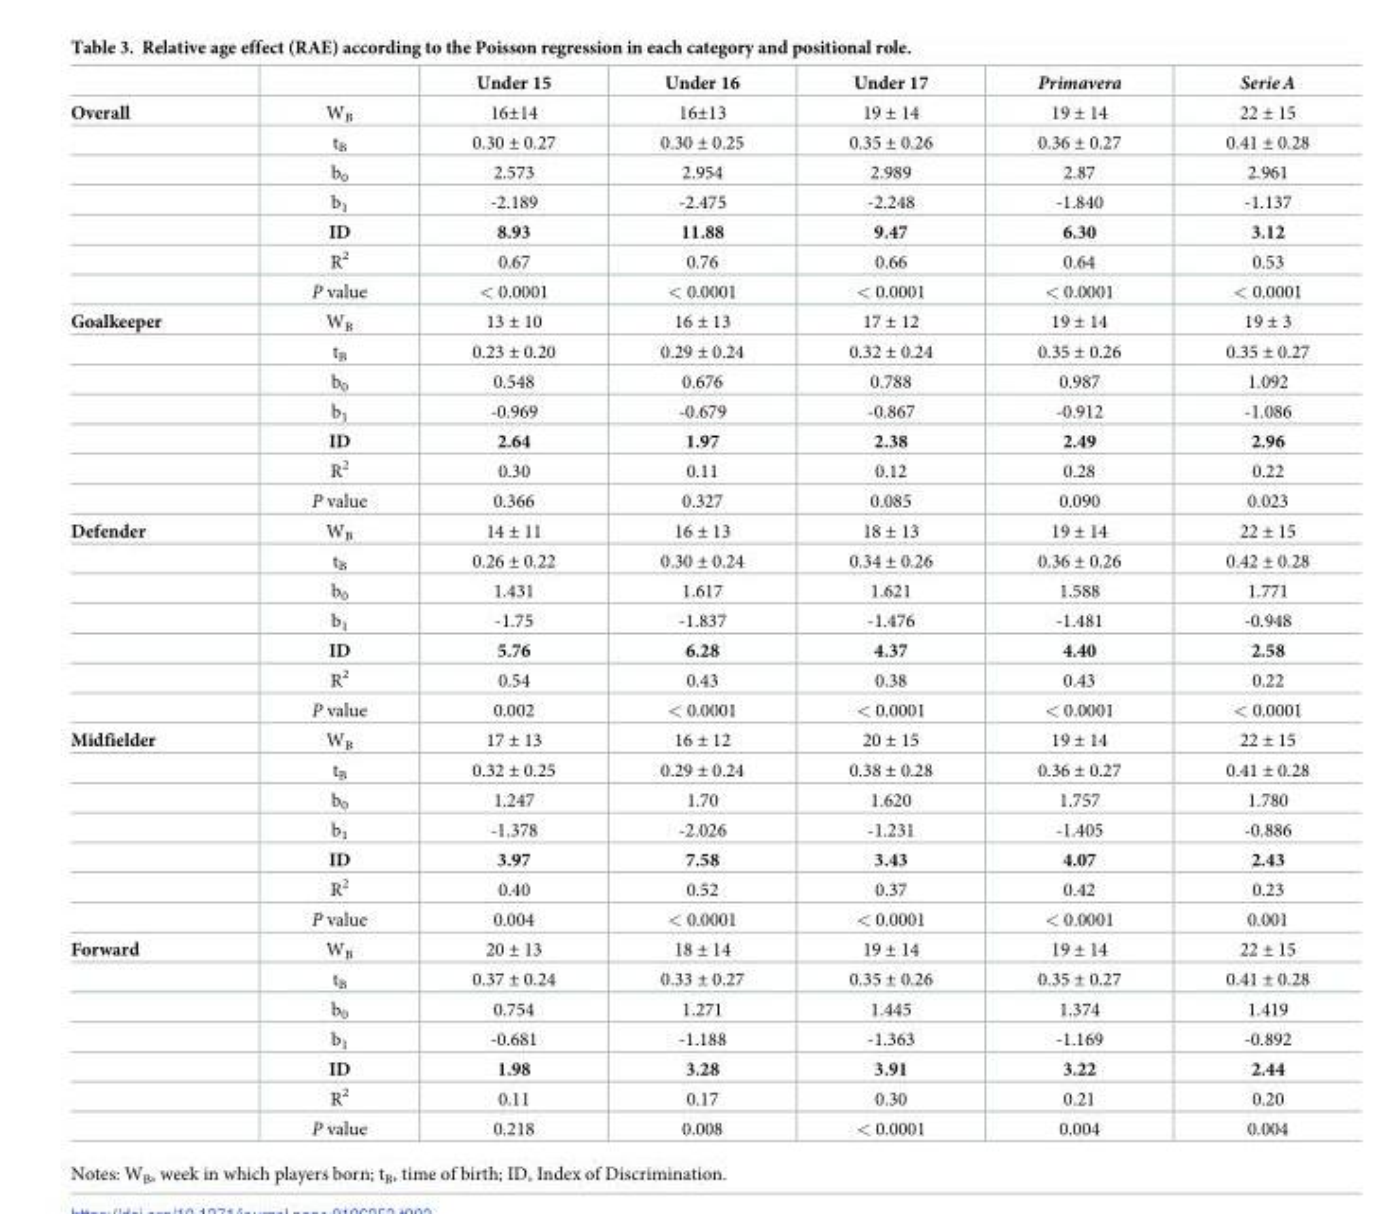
<table><thead><tr><td></td><td></td><td>Under 15</td><td>Under 16</td><td>Under 17</td><td>Primavera</td><td>Serie A</td></tr></thead><tbody><tr><td rowspan="7">Overall</td><td>W<sub>B</sub></td><td>16±14</td><td>16±13</td><td>19 ± 14</td><td>19 ± 14</td><td>22 ± 15</td></tr><tr><td>t<sub>B</sub></td><td>0.30 ± 0.27</td><td>0.30 ± 0.25</td><td>0.35 ± 0.26</td><td>0.36 ± 0.27</td><td>0.41 ± 0.28</td></tr><tr><td>b<sub>0</sub></td><td>2.573</td><td>2.954</td><td>2.989</td><td>2.87</td><td>2.961</td></tr><tr><td>b<sub>1</sub></td><td>-2.189</td><td>-2.475</td><td>-2.248</td><td>-1.840</td><td>-1.137</td></tr><tr><td>ID</td><td>8.93</td><td>11.88</td><td>9.47</td><td>6.30</td><td>3.12</td></tr><tr><td>R<sup>2</sup></td><td>0.67</td><td>0.76</td><td>0.66</td><td>0.64</td><td>0.53</td></tr><tr><td>P value</td><td>&lt; 0.0001</td><td>&lt; 0.0001</td><td>&lt; 0.0001</td><td>&lt; 0.0001</td><td>&lt; 0.0001</td></tr><tr><td rowspan="7">Goalkeeper</td><td>W<sub>B</sub></td><td>13 ± 10</td><td>16 ± 13</td><td>17 ± 12</td><td>19 ± 14</td><td>19 ± 3</td></tr><tr><td>t<sub>B</sub></td><td>0.23 ± 0.20</td><td>0.29 ± 0.24</td><td>0.32 ± 0.24</td><td>0.35 ± 0.26</td><td>0.35 ± 0.27</td></tr><tr><td>b<sub>0</sub></td><td>0.548</td><td>0.676</td><td>0.788</td><td>0.987</td><td>1.092</td></tr><tr><td>b<sub>1</sub></td><td>-0.969</td><td>-0.679</td><td>-0.867</td><td>-0.912</td><td>-1.086</td></tr><tr><td>ID</td><td>2.64</td><td>1.97</td><td>2.38</td><td>2.49</td><td>2.96</td></tr><tr><td>R<sup>2</sup></td><td>0.30</td><td>0.11</td><td>0.12</td><td>0.28</td><td>0.22</td></tr><tr><td>P value</td><td>0.366</td><td>0.327</td><td>0.085</td><td>0.090</td><td>0.023</td></tr><tr><td rowspan="7">Defender</td><td>W<sub>B</sub></td><td>14 ± 11</td><td>16 ± 13</td><td>18 ± 13</td><td>19 ± 14</td><td>22 ± 15</td></tr><tr><td>t<sub>B</sub></td><td>0.26 ± 0.22</td><td>0.30 ± 0.24</td><td>0.34 ± 0.26</td><td>0.36 ± 0.26</td><td>0.42 ± 0.28</td></tr><tr><td>b<sub>0</sub></td><td>1.431</td><td>1.617</td><td>1.621</td><td>1.588</td><td>1.771</td></tr><tr><td>b<sub>1</sub></td><td>-1.75</td><td>-1.837</td><td>-1.476</td><td>-1.481</td><td>-0.948</td></tr><tr><td>ID</td><td>5.76</td><td>6.28</td><td>4.37</td><td>4.40</td><td>2.58</td></tr><tr><td>R<sup>2</sup></td><td>0.54</td><td>0.43</td><td>0.38</td><td>0.43</td><td>0.22</td></tr><tr><td>P value</td><td>0.002</td><td>&lt; 0.0001</td><td>&lt; 0.0001</td><td>&lt; 0.0001</td><td>&lt; 0.0001</td></tr><tr><td rowspan="7">Midfielder</td><td>W<sub>B</sub></td><td>17 ± 13</td><td>16 ± 12</td><td>20 ± 15</td><td>19 ± 14</td><td>22 ± 15</td></tr><tr><td>t<sub>B</sub></td><td>0.32 ± 0.25</td><td>0.29 ± 0.24</td><td>0.38 ± 0.28</td><td>0.36 ± 0.27</td><td>0.41 ± 0.28</td></tr><tr><td>b<sub>0</sub></td><td>1.247</td><td>1.70</td><td>1.620</td><td>1.757</td><td>1.780</td></tr><tr><td>b<sub>1</sub></td><td>-1.378</td><td>-2.026</td><td>-1.231</td><td>-1.405</td><td>-0.886</td></tr><tr><td>ID</td><td>3.97</td><td>7.58</td><td>3.43</td><td>4.07</td><td>2.43</td></tr><tr><td>R<sup>2</sup></td><td>0.40</td><td>0.52</td><td>0.37</td><td>0.42</td><td>0.23</td></tr><tr><td>P value</td><td>0.004</td><td>&lt; 0.0001</td><td>&lt; 0.0001</td><td>&lt; 0.0001</td><td>0.001</td></tr><tr><td rowspan="7">Forward</td><td>W<sub>B</sub></td><td>20 ± 13</td><td>18 ± 14</td><td>19 ± 14</td><td>19 ± 14</td><td>22 ± 15</td></tr><tr><td>t<sub>B</sub></td><td>0.37 ± 0.24</td><td>0.33 ± 0.27</td><td>0.35 ± 0.26</td><td>0.35 ± 0.27</td><td>0.41 ± 0.28</td></tr><tr><td>b<sub>0</sub></td><td>0.754</td><td>1.271</td><td>1.445</td><td>1.374</td><td>1.419</td></tr><tr><td>b<sub>1</sub></td><td>-0.681</td><td>-1.188</td><td>-1.363</td><td>-1.169</td><td>-0.892</td></tr><tr><td>ID</td><td>1.98</td><td>3.28</td><td>3.91</td><td>3.22</td><td>2.44</td></tr><tr><td>R<sup>2</sup></td><td>0.11</td><td>0.17</td><td>0.30</td><td>0.21</td><td>0.20</td></tr><tr><td>P value</td><td>0.218</td><td>0.008</td><td>&lt; 0.0001</td><td>0.004</td><td>0.004</td></tr></tbody></table>